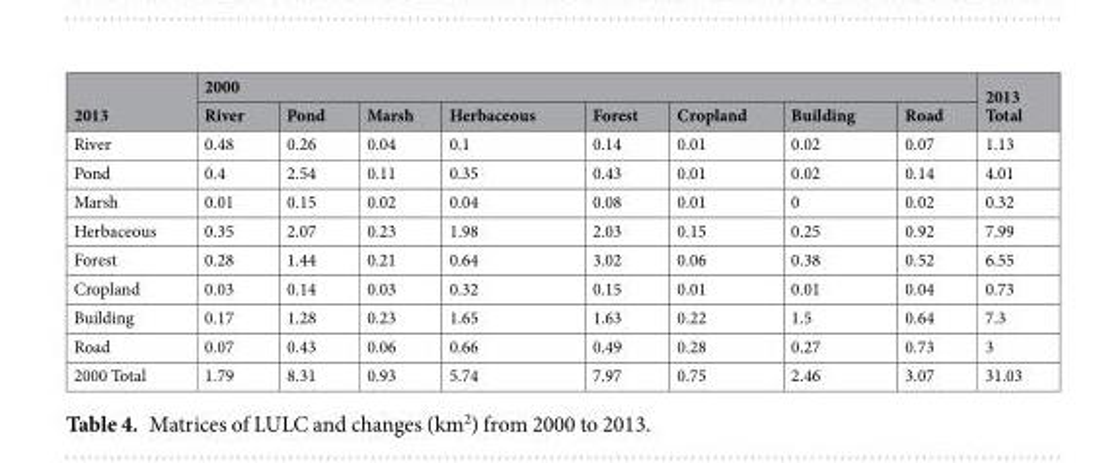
<table><thead><tr><td rowspan="2">2013</td><td colspan="8">2000</td><td rowspan="2">2013 Total</td></tr><tr><td>River</td><td>Pond</td><td>Marsh</td><td>Herbaceous</td><td>Forest</td><td>Cropland</td><td>Building</td><td>Road</td></tr></thead><tbody><tr><td>River</td><td>0.48</td><td>0.26</td><td>0.04</td><td>0.1</td><td>0.14</td><td>0.01</td><td>0.02</td><td>0.07</td><td>1.13</td></tr><tr><td>Pond</td><td>0.4</td><td>2.54</td><td>0.11</td><td>0.35</td><td>0.43</td><td>0.01</td><td>0.02</td><td>0.14</td><td>4.01</td></tr><tr><td>Marsh</td><td>0.01</td><td>0.15</td><td>0.02</td><td>0.04</td><td>0.08</td><td>0.01</td><td>0</td><td>0.02</td><td>0.32</td></tr><tr><td>Herbaceous</td><td>0.35</td><td>2.07</td><td>0.23</td><td>1.98</td><td>2.03</td><td>0.15</td><td>0.25</td><td>0.92</td><td>7.99</td></tr><tr><td>Forest</td><td>0.28</td><td>1.44</td><td>0.21</td><td>0.64</td><td>3.02</td><td>0.06</td><td>0.38</td><td>0.52</td><td>6.55</td></tr><tr><td>Cropland</td><td>0.03</td><td>0.14</td><td>0.03</td><td>0.32</td><td>0.15</td><td>0.01</td><td>0.01</td><td>0.04</td><td>0.73</td></tr><tr><td>Building</td><td>0.17</td><td>1.28</td><td>0.23</td><td>1.65</td><td>1.63</td><td>0.22</td><td>1.5</td><td>0.64</td><td>7.3</td></tr><tr><td>Road</td><td>0.07</td><td>0.43</td><td>0.06</td><td>0.66</td><td>0.49</td><td>0.28</td><td>0.27</td><td>0.73</td><td>3</td></tr><tr><td>2000 Total</td><td>1.79</td><td>8.31</td><td>0.93</td><td>5.74</td><td>7.97</td><td>0.75</td><td>2.46</td><td>3.07</td><td>31.03</td></tr></tbody></table>